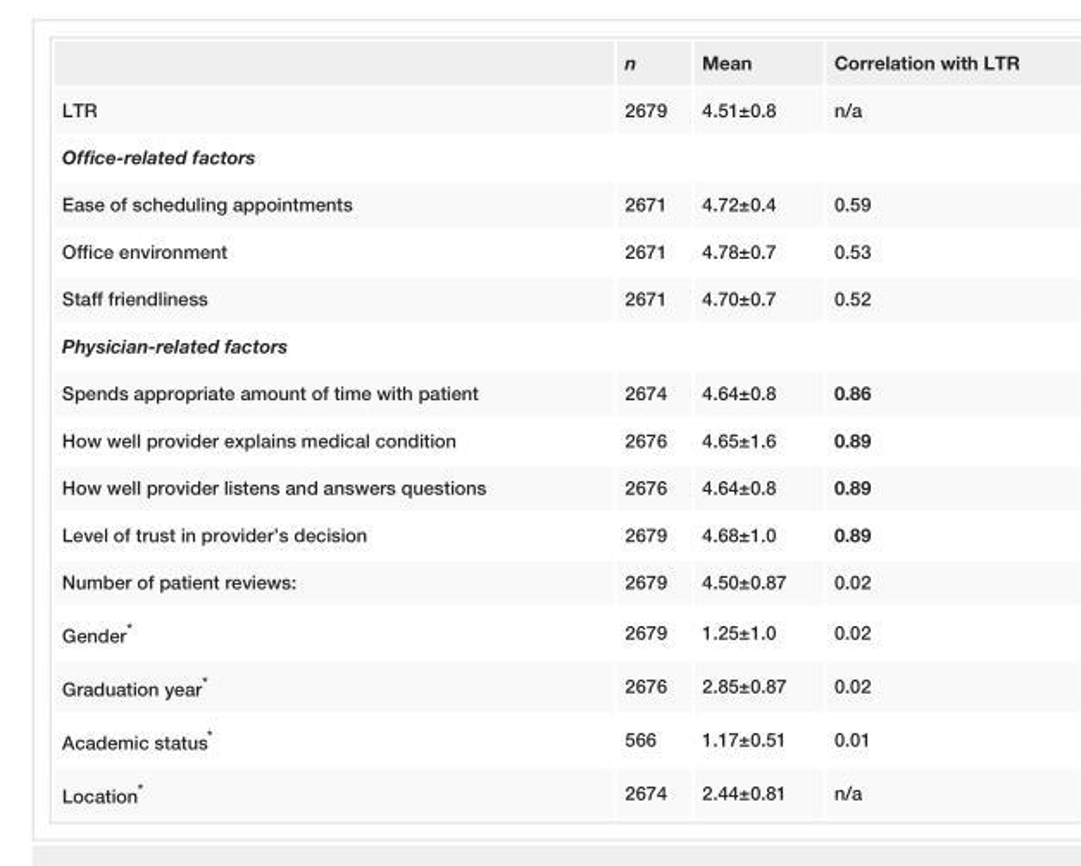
<table><thead><tr><td></td><td>n</td><td>Mean</td><td>Correlation with LTR</td></tr></thead><tbody><tr><td>LTR</td><td>2679</td><td>4.51±0.8</td><td>n/a</td></tr><tr><td colspan="4">Office-related factors</td></tr><tr><td>Ease of scheduling appointments</td><td>2671</td><td>4.72±0.4</td><td>0.59</td></tr><tr><td>Office environment</td><td>2671</td><td>4.78±0.7</td><td>0.53</td></tr><tr><td>Staff friendliness</td><td>2671</td><td>4.70±0.7</td><td>0.52</td></tr><tr><td colspan="4">Physician-related factors</td></tr><tr><td>Spends appropriate amount of time with patient</td><td>2674</td><td>4.64±0.8</td><td>0.86</td></tr><tr><td>How well provider explains medical condition</td><td>2676</td><td>4.65±1.6</td><td>0.89</td></tr><tr><td>How well provider listens and answers questions</td><td>2676</td><td>4.64±0.8</td><td>0.89</td></tr><tr><td>Level of trust in provider’s decision</td><td>2679</td><td>4.68±1.0</td><td>0.89</td></tr><tr><td>Number of patient reviews:</td><td>2679</td><td>4.50±0.87</td><td>0.02</td></tr><tr><td>Gender*</td><td>2679</td><td>1.25±1.0</td><td>0.02</td></tr><tr><td>Graduation year*</td><td>2676</td><td>2.85±0.87</td><td>0.02</td></tr><tr><td>Academic status*</td><td>566</td><td>1.17±0.51</td><td>0.01</td></tr><tr><td>Location*</td><td>2674</td><td>2.44±0.81</td><td>n/a</td></tr></tbody></table>